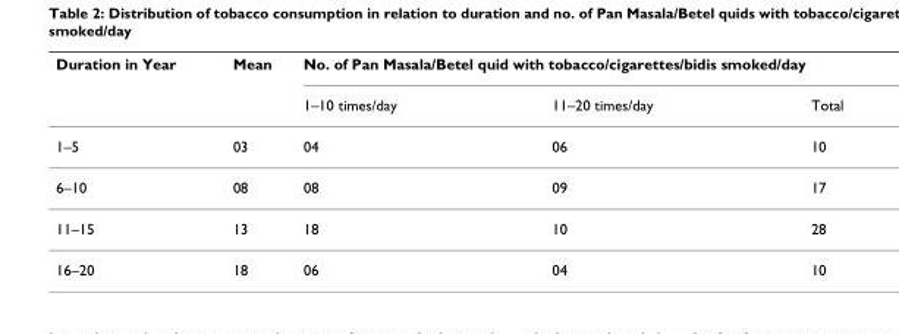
<table><thead><tr><td rowspan="2">Duration in Year</td><td rowspan="2">Mean</td><td colspan="3">No. of Pan Masala/Betel quid with tobacco/cigarettes/bidis smoked/day</td></tr><tr><td>1–10 times/day</td><td>11–20 times/day</td><td>Total</td></tr></thead><tbody><tr><td>1–5</td><td>03</td><td>04</td><td>06</td><td>10</td></tr><tr><td>6–10</td><td>08</td><td>08</td><td>09</td><td>17</td></tr><tr><td>11–15</td><td>13</td><td>18</td><td>10</td><td>28</td></tr><tr><td>16–20</td><td>18</td><td>06</td><td>04</td><td>10</td></tr></tbody></table>